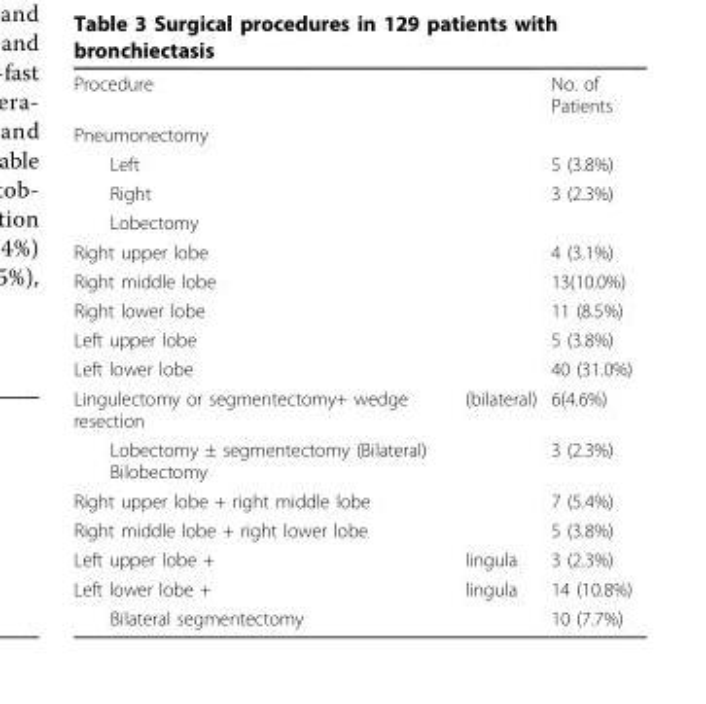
<table><tbody><tr><td>Procedure</td><td></td><td>No. of Patients</td></tr><tr><td colspan="3">Pneumonectomy</td></tr><tr><td>Left</td><td></td><td>5 (3.8%)</td></tr><tr><td>Right</td><td></td><td>3 (2.3%)</td></tr><tr><td colspan="3">Lobectomy</td></tr><tr><td>Right upper lobe</td><td></td><td>4 (3.1%)</td></tr><tr><td>Right middle lobe</td><td></td><td>13(10.0%)</td></tr><tr><td>Right lower lobe</td><td></td><td>11 (8.5%)</td></tr><tr><td>Left upper lobe</td><td></td><td>5 (3.8%)</td></tr><tr><td>Left lower lobe</td><td></td><td>40 (31.0%)</td></tr><tr><td>Lingulectomy or segmentectomy+ wedge resection</td><td>(bilateral)</td><td>6(4.6%)</td></tr><tr><td>Lobectomy ± segmentectomy (Bilateral) Bilobectomy</td><td></td><td>3 (2.3%)</td></tr><tr><td colspan="2">Right upper lobe + right middle lobe</td><td>7 (5.4%)</td></tr><tr><td colspan="2">Right middle lobe + right lower lobe</td><td>5 (3.8%)</td></tr><tr><td>Left upper lobe +</td><td>lingula</td><td>3 (2.3%)</td></tr><tr><td>Left lower lobe +</td><td>lingula</td><td>14 (10.8%)</td></tr><tr><td colspan="2">Bilateral segmentectomy</td><td>10 (7.7%)</td></tr></tbody></table>